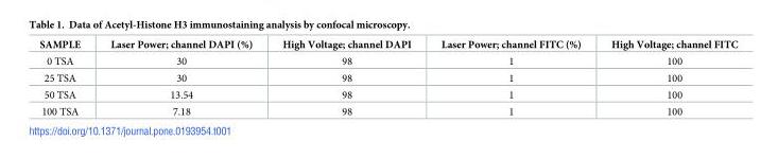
<table><thead><tr><td>SAMPLE</td><td>Laser Power; channel DAPI (%)</td><td>High Voltage; channel DAPI</td><td>Laser Power; channel FITC (%)</td><td>High Voltage; channel FITC</td></tr></thead><tbody><tr><td>0 TSA</td><td>30</td><td>98</td><td>1</td><td>100</td></tr><tr><td>25 TSA</td><td>30</td><td>98</td><td>1</td><td>100</td></tr><tr><td>50 TSA</td><td>13.54</td><td>98</td><td>1</td><td>100</td></tr><tr><td>100 TSA</td><td>7.18</td><td>98</td><td>1</td><td>100</td></tr></tbody></table>